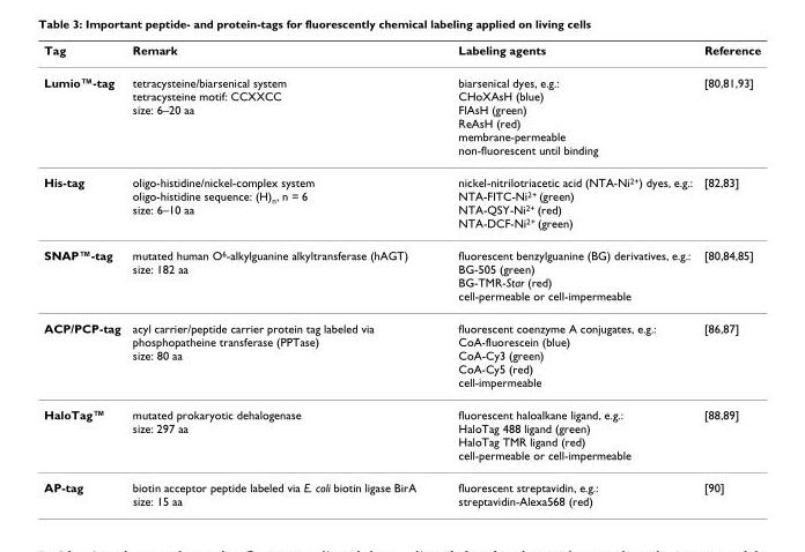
<table><thead><tr><td>Tag</td><td>Remark</td><td>Labeling agents</td><td>Reference</td></tr></thead><tbody><tr><td>Lumio™-tag</td><td>tetracysteine/biarsenical system tetracysteine motif: CCXXCC size: 6–20 aa</td><td>biarsenical dyes, e.g.: CHoXAsH (blue) FlAsH (green) ReAsH (red) membrane-permeable non-fluorescent until binding</td><td>[80,81,93]</td></tr><tr><td>His-tag</td><td>oligo-histidine/nickel-complex system oligo-histidine sequence: (H)<sub>n</sub>, n = 6 size: 6–10 aa</td><td>nickel-nitrilotriacetic acid (NTA-Ni<sup>2+</sup>) dyes, e.g.: NTA-FITC-Ni<sup>2+</sup> (green) NTA-QSY-Ni<sup>2+</sup> (red) NTA-DCF-Ni<sup>2+</sup> (green)</td><td>[82,83]</td></tr><tr><td>SNAP™-tag</td><td>mutated human O<sup>6</sup>-alkylguanine alkyltransferase (hAGT) size: 182 aa</td><td>fluorescent benzylguanine (BG) derivatives, e.g.: BG-505 (green) BG-TMR-Star (red) cell-permeable or cell-impermeable</td><td>[80,84,85]</td></tr><tr><td>ACP/PCP-tag</td><td>acyl carrier/peptide carrier protein tag labeled via phosphopatheine transferase (PPTase) size: 80 aa</td><td>fluorescent coenzyme A conjugates, e.g.: CoA-fluorescein (blue) CoA-Cy3 (green) CoA-Cy5 (red) cell-impermeable</td><td>[86,87]</td></tr><tr><td>HaloTag™</td><td>mutated prokaryotic dehalogenase size: 297 aa</td><td>fluorescent haloalkane ligand, e.g.: HaloTag 488 ligand (green) HaloTag TMR ligand (red) cell-permeable or cell-impermeable</td><td>[88,89]</td></tr><tr><td>AP-tag</td><td>biotin acceptor peptide labeled via E. coli biotin ligase BirA size: 15 aa</td><td>fluorescent streptavidin, e.g.: streptavidin-Alexa568 (red)</td><td>[90]</td></tr></tbody></table>